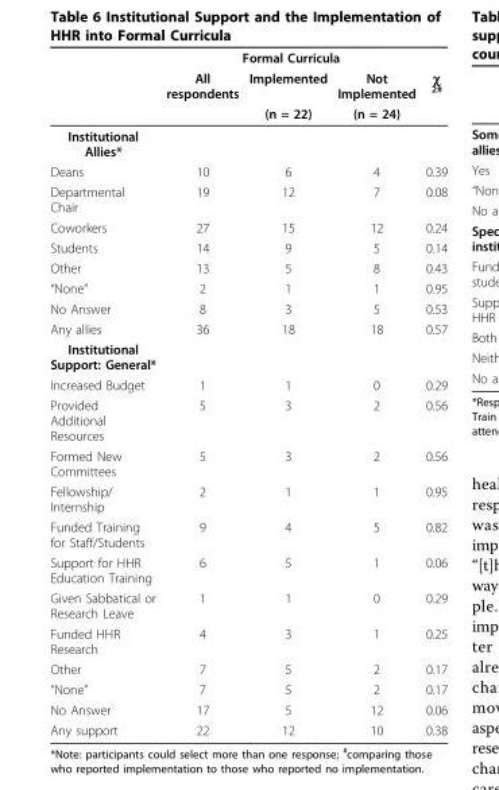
<table><thead><tr><td rowspan="3"></td><td colspan="3">Formal Curricula</td><td rowspan="3">χ <sup>2#</sup></td></tr><tr><td rowspan="2">All respondents</td><td rowspan="2">Implemented (n = 22)</td><td rowspan="2">Not Implemented (n = 24)</td></tr><tr></tr></thead><tbody><tr><td colspan="5">Institutional Allies*</td></tr><tr><td>Deans</td><td>10</td><td>6</td><td>4</td><td>0.39</td></tr><tr><td>Departmental Chair</td><td>19</td><td>12</td><td>7</td><td>0.08</td></tr><tr><td>Coworkers</td><td>27</td><td>15</td><td>12</td><td>0.24</td></tr><tr><td>Students</td><td>14</td><td>9</td><td>5</td><td>0.14</td></tr><tr><td>Other</td><td>13</td><td>5</td><td>8</td><td>0.43</td></tr><tr><td>“None”</td><td>2</td><td>1</td><td>1</td><td>0.95</td></tr><tr><td>No Answer</td><td>8</td><td>3</td><td>5</td><td>0.53</td></tr><tr><td>Any allies</td><td>36</td><td>18</td><td>18</td><td>0.57</td></tr><tr><td colspan="5">Institutional Support: General*</td></tr><tr><td>Increased Budget</td><td>1</td><td>1</td><td>0</td><td>0.29</td></tr><tr><td>Provided Additional Resources</td><td>5</td><td>3</td><td>2</td><td>0.56</td></tr><tr><td>Formed New Committees</td><td>5</td><td>3</td><td>2</td><td>0.56</td></tr><tr><td>Fellowship/ Internship</td><td>2</td><td>1</td><td>1</td><td>0.95</td></tr><tr><td>Funded Training for Staff/Students</td><td>9</td><td>4</td><td>5</td><td>0.82</td></tr><tr><td>Support for HHR Education Training</td><td>6</td><td>5</td><td>1</td><td>0.06</td></tr><tr><td>Given Sabbatical or Research Leave</td><td>1</td><td>1</td><td>0</td><td>0.29</td></tr><tr><td>Funded HHR Research</td><td>4</td><td>3</td><td>1</td><td>0.25</td></tr><tr><td>Other</td><td>7</td><td>5</td><td>2</td><td>0.17</td></tr><tr><td>“None”</td><td>7</td><td>5</td><td>2</td><td>0.17</td></tr><tr><td>No Answer</td><td>17</td><td>5</td><td>12</td><td>0.06</td></tr><tr><td>Any support</td><td>22</td><td>12</td><td>10</td><td>0.38</td></tr></tbody></table>